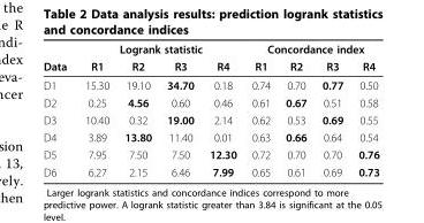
<table><thead><tr><td rowspan="2">Data</td><td colspan="4">Logrank statistic</td><td colspan="4">Concordance index</td></tr><tr><td>R1</td><td>R2</td><td>R3</td><td>R4</td><td>R1</td><td>R2</td><td>R3</td><td>R4</td></tr></thead><tbody><tr><td>D1</td><td>15.30</td><td>19.10</td><td>34.70</td><td>0.18</td><td>0.74</td><td>0.70</td><td>0.77</td><td>0.50</td></tr><tr><td>D2</td><td>0.25</td><td>4.56</td><td>0.60</td><td>0.46</td><td>0.61</td><td>0.67</td><td>0.51</td><td>0.58</td></tr><tr><td>D3</td><td>10.40</td><td>0.32</td><td>19.00</td><td>2.14</td><td>0.62</td><td>0.53</td><td>0.69</td><td>0.55</td></tr><tr><td>D4</td><td>3.89</td><td>13.80</td><td>11.40</td><td>0.01</td><td>0.63</td><td>0.66</td><td>0.64</td><td>0.54</td></tr><tr><td>D5</td><td>7.95</td><td>7.50</td><td>7.50</td><td>12.30</td><td>0.72</td><td>0.70</td><td>0.70</td><td>0.76</td></tr><tr><td>D6</td><td>6.27</td><td>2.15</td><td>6.46</td><td>7.99</td><td>0.65</td><td>0.61</td><td>0.69</td><td>0.73</td></tr></tbody></table>